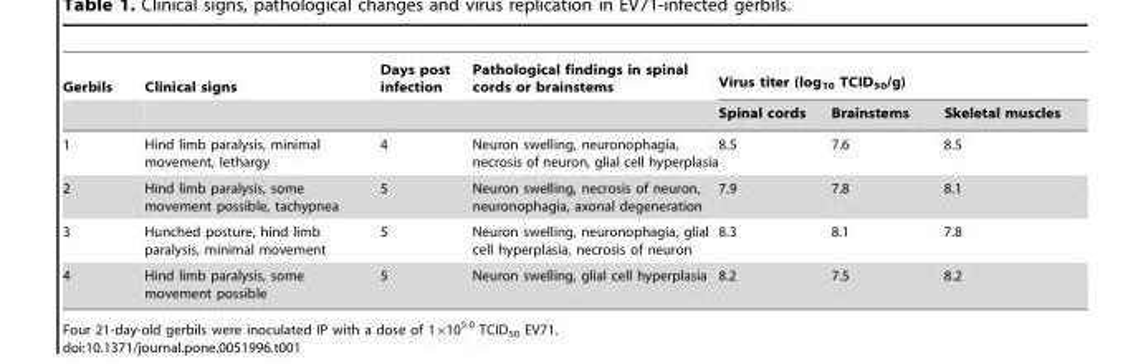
<table><thead><tr><td rowspan="2">Gerbils</td><td rowspan="2">Clinical signs</td><td rowspan="2">Days post infection</td><td rowspan="2">Pathological findings in spinal cords or brainstems</td><td colspan="3">Virus titer (log<sub>10</sub> TCID<sub>50</sub>/g)</td></tr><tr><td>Spinal cords</td><td>Brainstems</td><td>Skeletal muscles</td></tr></thead><tbody><tr><td>1</td><td>Hind limb paralysis, minimal movement, lethargy</td><td>4</td><td>Neuron swelling, neuronophagia, necrosis of neuron, glial cell hyperplasia</td><td>8.5</td><td>7.6</td><td>8.5</td></tr><tr><td>2</td><td>Hind limb paralysis, some movement possible, tachypnea</td><td>5</td><td>Neuron swelling, necrosis of neuron, neuronophagia, axonal degeneration</td><td>7.9</td><td>7.8</td><td>8.1</td></tr><tr><td>3</td><td>Hunched posture, hind limb paralysis, minimal movement</td><td>5</td><td>Neuron swelling, neuronophagia, glial cell hyperplasia, necrosis of neuron</td><td>8.3</td><td>8.1</td><td>7.8</td></tr><tr><td>4</td><td>Hind limb paralysis, some movement possible</td><td>5</td><td>Neuron swelling, glial cell hyperplasia</td><td>8.2</td><td>7.5</td><td>8.2</td></tr></tbody></table>